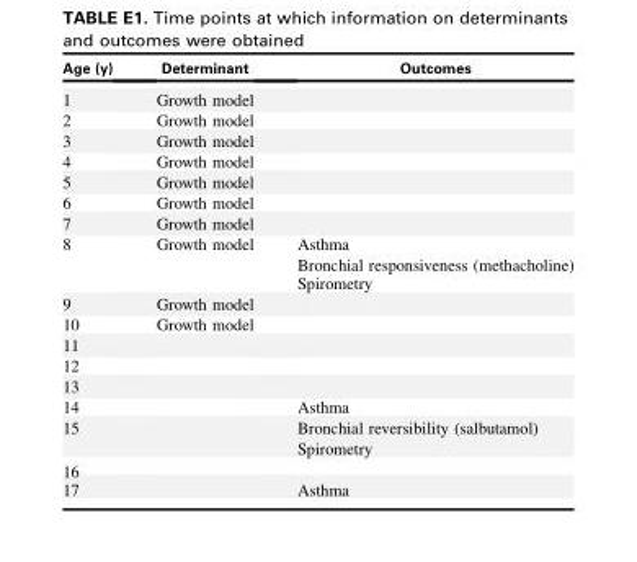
<table><thead><tr><td>Age (y)</td><td>Determinant</td><td>Outcomes</td></tr></thead><tbody><tr><td>1</td><td>Growth model</td><td></td></tr><tr><td>2</td><td>Growth model</td><td></td></tr><tr><td>3</td><td>Growth model</td><td></td></tr><tr><td>4</td><td>Growth model</td><td></td></tr><tr><td>5</td><td>Growth model</td><td></td></tr><tr><td>6</td><td>Growth model</td><td></td></tr><tr><td>7</td><td>Growth model</td><td></td></tr><tr><td rowspan="3">8</td><td>Growth model</td><td>Asthma</td></tr><tr><td></td><td>Bronchial responsiveness (methacholine)</td></tr><tr><td></td><td>Spirometry</td></tr><tr><td>9</td><td>Growth model</td><td></td></tr><tr><td>10</td><td>Growth model</td><td></td></tr><tr><td colspan="3">11</td></tr><tr><td colspan="3">12</td></tr><tr><td colspan="3">13</td></tr><tr><td>14</td><td></td><td>Asthma</td></tr><tr><td rowspan="2">15</td><td></td><td>Bronchial reversibility (salbutamol)</td></tr><tr><td></td><td>Spirometry</td></tr><tr><td colspan="3">16</td></tr><tr><td>17</td><td></td><td>Asthma</td></tr></tbody></table>